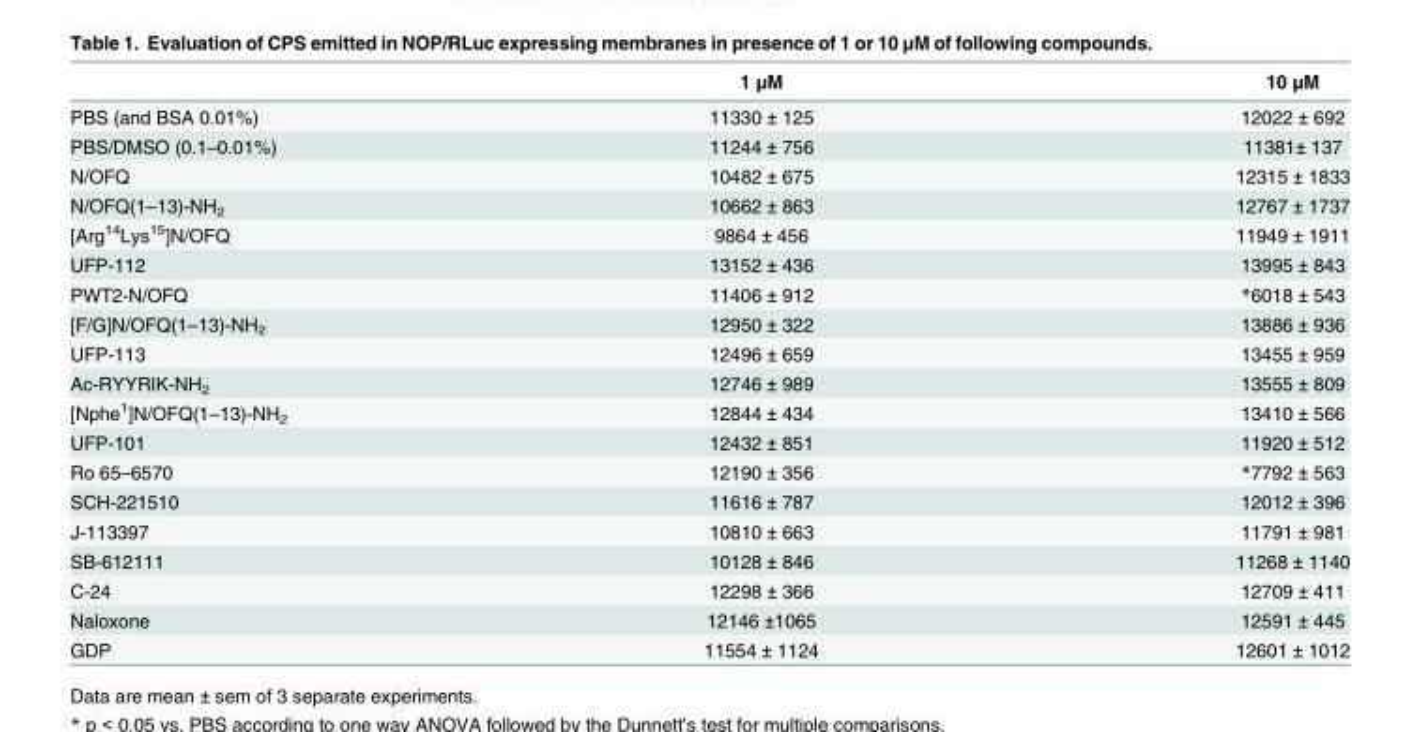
<table><thead><tr><td></td><td>1 μM</td><td>10 μM</td></tr></thead><tbody><tr><td>PBS (and BSA 0.01%)</td><td>11330 ± 125</td><td>12022 ± 692</td></tr><tr><td>PBS/DMSO (0.1–0.01%)</td><td>11244 ± 756</td><td>11381± 137</td></tr><tr><td>N/OFQ</td><td>10482 ± 675</td><td>12315 ± 1833</td></tr><tr><td>N/OFQ(1–13)-NH<sub>2</sub></td><td>10662 ± 863</td><td>12767 ± 1737</td></tr><tr><td>[Arg<sup>14</sup>Lys<sup>15</sup>]N/OFQ</td><td>9864 ± 456</td><td>11949 ± 1911</td></tr><tr><td>UFP-112</td><td>13152 ± 436</td><td>13995 ± 843</td></tr><tr><td>PWT2-N/OFQ</td><td>11406 ± 912</td><td>*6018 ± 543</td></tr><tr><td>[F/G]N/OFQ(1–13)-NH<sub>2</sub></td><td>12950 ± 322</td><td>13886 ± 936</td></tr><tr><td>UFP-113</td><td>12496 ± 659</td><td>13455 ± 959</td></tr><tr><td>Ac-RYYRIK-NH<sub>2</sub></td><td>12746 ± 989</td><td>13555 ± 809</td></tr><tr><td>[Nphe<sup>1</sup>]N/OFQ(1–13)-NH<sub>2</sub></td><td>12844 ± 434</td><td>13410 ± 566</td></tr><tr><td>UFP-101</td><td>12432 ± 851</td><td>11920 ± 512</td></tr><tr><td>Ro 65–6570</td><td>12190 ± 356</td><td>*7792 ± 563</td></tr><tr><td>SCH-221510</td><td>11616 ± 787</td><td>12012 ± 396</td></tr><tr><td>J-113397</td><td>10810 ± 663</td><td>11791 ± 981</td></tr><tr><td>SB-612111</td><td>10128 ± 846</td><td>11268 ± 1140</td></tr><tr><td>C-24</td><td>12298 ± 366</td><td>12709 ± 411</td></tr><tr><td>Naloxone</td><td>12146 ±1065</td><td>12591 ± 445</td></tr><tr><td>GDP</td><td>11554 ± 1124</td><td>12601 ± 1012</td></tr></tbody></table>